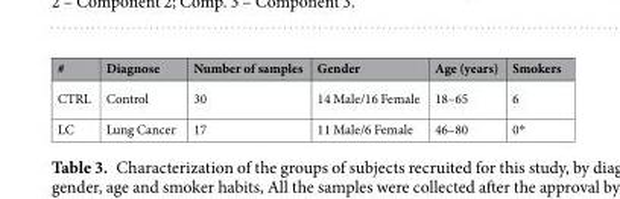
<table><thead><tr><td>#</td><td>Diagnose</td><td>Number of samples</td><td>Gender</td><td>Age (years)</td><td>Smokers</td></tr></thead><tbody><tr><td>CTRL</td><td>Control</td><td>30</td><td>14 Male/16 Female</td><td>18–65</td><td>6</td></tr><tr><td>LC</td><td>Lung Cancer</td><td>17</td><td>11 Male/6 Female</td><td>46–80</td><td>0*</td></tr></tbody></table>